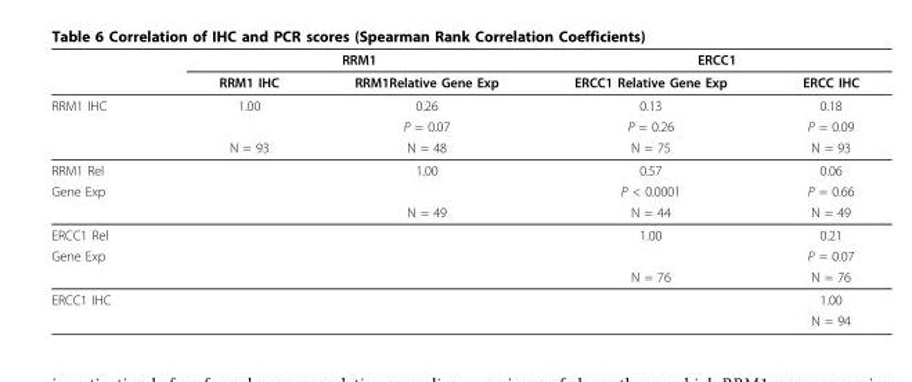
<table><thead><tr><td rowspan="2"></td><td colspan="2">RRM1</td><td colspan="2">ERCC1</td></tr><tr><td>RRM1 IHC</td><td>RRM1Relative Gene Exp</td><td>ERCC1 Relative Gene Exp</td><td>ERCC IHC</td></tr></thead><tbody><tr><td rowspan="3">RRM1 IHC</td><td>1.00</td><td>0.26</td><td>0.13</td><td>0.18</td></tr><tr><td></td><td>P = 0.07</td><td>P = 0.26</td><td>P = 0.09</td></tr><tr><td>N = 93</td><td>N = 48</td><td>N = 75</td><td>N = 93</td></tr><tr><td>RRM1 Rel</td><td></td><td>1.00</td><td>0.57</td><td>0.06</td></tr><tr><td rowspan="2">Gene Exp</td><td></td><td></td><td>P &lt; 0.0001</td><td>P = 0.66</td></tr><tr><td></td><td>N = 49</td><td>N = 44</td><td>N = 49</td></tr><tr><td>ERCC1 Rel</td><td></td><td></td><td>1.00</td><td>0.21</td></tr><tr><td rowspan="2">Gene Exp</td><td></td><td></td><td></td><td>P = 0.07</td></tr><tr><td></td><td></td><td>N = 76</td><td>N = 76</td></tr><tr><td rowspan="2">ERCC1 IHC</td><td></td><td></td><td></td><td>1.00</td></tr><tr><td></td><td></td><td></td><td>N = 94</td></tr></tbody></table>